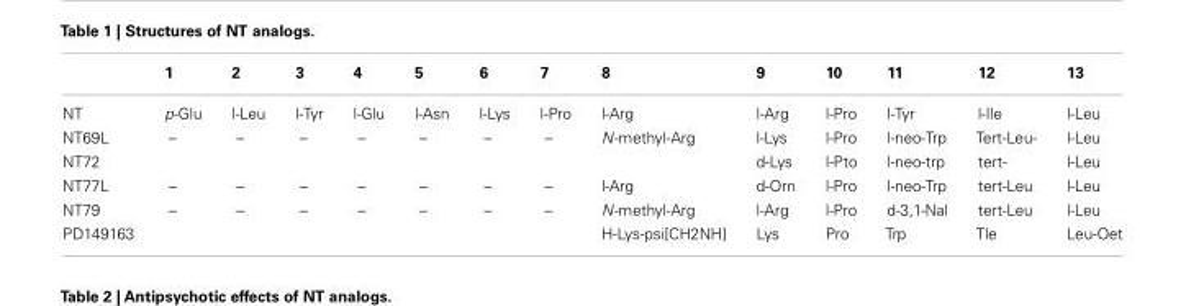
<table><thead><tr><td></td><td>1</td><td>2</td><td>3</td><td>4</td><td>5</td><td>6</td><td>7</td><td>8</td><td>9</td><td>10</td><td>11</td><td>12</td><td>13</td></tr></thead><tbody><tr><td>NT</td><td>p-Glu</td><td>l-Leu</td><td>l-Tyr</td><td>l-Glu</td><td>l-Asn</td><td>l-Lys</td><td>l-Pro</td><td>l-Arg</td><td>l-Arg</td><td>l-Pro</td><td>l-Tyr</td><td>l-Ile</td><td>l-Leu</td></tr><tr><td>NT69L</td><td>–</td><td>–</td><td>–</td><td>–</td><td>–</td><td>–</td><td>–</td><td>N-methyl-Arg</td><td>l-Lys</td><td>l-Pro</td><td>l-neo-Trp</td><td>Tert-Leu-</td><td>l-Leu</td></tr><tr><td>NT72</td><td></td><td></td><td></td><td></td><td></td><td></td><td></td><td></td><td>d-Lys</td><td>l-Pto</td><td>l-neo-trp</td><td>tert-</td><td>l-Leu</td></tr><tr><td>NT77L</td><td>–</td><td>–</td><td>–</td><td>–</td><td>–</td><td>–</td><td>–</td><td>l-Arg</td><td>d-Orn</td><td>l-Pro</td><td>l-neo-Trp</td><td>tert-Leu</td><td>l-Leu</td></tr><tr><td>NT79</td><td>–</td><td>–</td><td>–</td><td>–</td><td>–</td><td>–</td><td>–</td><td>N-methyl-Arg</td><td>l-Arg</td><td>l-Pro</td><td>d-3,1-Nal</td><td>tert-Leu</td><td>l-Leu</td></tr><tr><td>PD149163</td><td></td><td></td><td></td><td></td><td></td><td></td><td></td><td>H-Lys-psi[CH2NH]</td><td>Lys</td><td>Pro</td><td>Trp</td><td>Tle</td><td>Leu-Oet</td></tr></tbody></table>